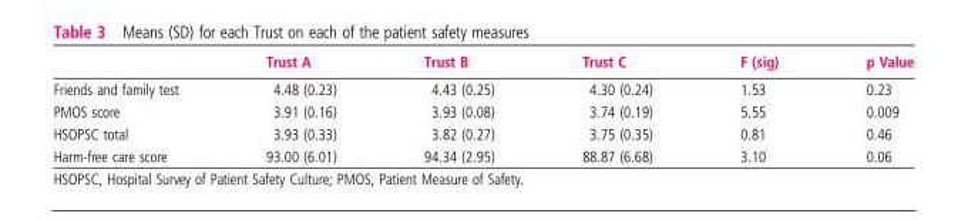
<table><thead><tr><td></td><td>Trust A</td><td>Trust B</td><td>Trust C</td><td>F (sig)</td><td>p Value</td></tr></thead><tbody><tr><td>Friends and family test</td><td>4.48 (0.23)</td><td>4.43 (0.25)</td><td>4.30 (0.24)</td><td>1.53</td><td>0.23</td></tr><tr><td>PMOS score</td><td>3.91 (0.16)</td><td>3.93 (0.08)</td><td>3.74 (0.19)</td><td>5.55</td><td>0.009</td></tr><tr><td>HSOPSC total</td><td>3.93 (0.33)</td><td>3.82 (0.27)</td><td>3.75 (0.35)</td><td>0.81</td><td>0.46</td></tr><tr><td>Harm-free care score</td><td>93.00 (6.01)</td><td>94.34 (2.95)</td><td>88.87 (6.68)</td><td>3.10</td><td>0.06</td></tr></tbody></table>